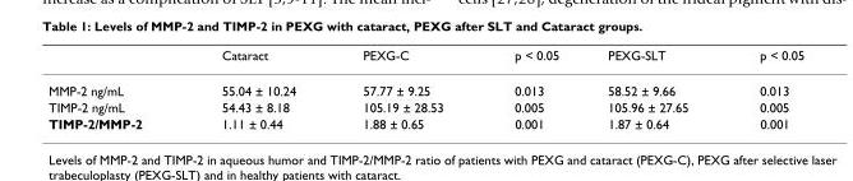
<table><thead><tr><td></td><td>Cataract</td><td>PEXG-C</td><td>p &lt; 0.05</td><td>PEXG-SLT</td><td>p &lt; 0.05</td></tr></thead><tbody><tr><td>MMP-2 ng/mL</td><td>55.04 ± 10.24</td><td>57.77 ± 9.25</td><td>0.013</td><td>58.52 ± 9.66</td><td>0.013</td></tr><tr><td>TIMP-2 ng/mL</td><td>54.43 ± 8.18</td><td>105.19 ± 28.53</td><td>0.005</td><td>105.96 ± 27.65</td><td>0.005</td></tr><tr><td>TIMP-2/MMP-2</td><td>1.11 ± 0.44</td><td>1.88 ± 0.65</td><td>0.001</td><td>1.87 ± 0.64</td><td>0.001</td></tr></tbody></table>